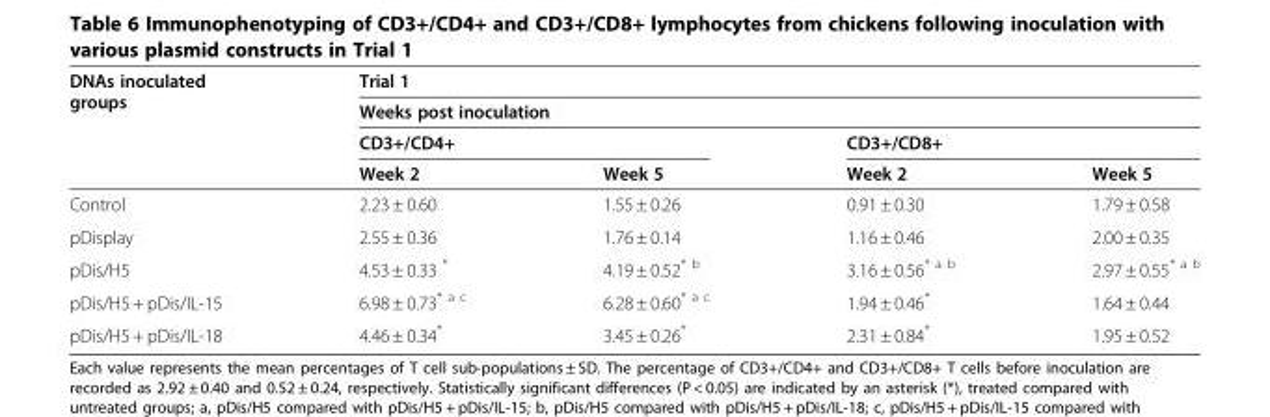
<table><thead><tr><td rowspan="4">DNAs inoculated groups</td><td rowspan="2" colspan="4">Trial 1 Weeks post inoculation</td></tr><tr></tr><tr><td colspan="2">CD3+/CD4+</td><td colspan="2">CD3+/CD8+</td></tr><tr><td>Week 2</td><td>Week 5</td><td>Week 2</td><td>Week 5</td></tr></thead><tbody><tr><td>Control</td><td>2.23 ± 0.60</td><td>1.55 ± 0.26</td><td>0.91 ± 0.30</td><td>1.79 ± 0.58</td></tr><tr><td>pDisplay</td><td>2.55 ± 0.36</td><td>1.76 ± 0.14</td><td>1.16 ± 0.46</td><td>2.00 ± 0.35</td></tr><tr><td>pDis/H5</td><td>4.53 ± 0.33 *</td><td>4.19 ± 0.52<sup>* b</sup></td><td>3.16 ± 0.56<sup>* a b</sup></td><td>2.97 ± 0.55<sup>* a b</sup></td></tr><tr><td>pDis/H5 + pDis/IL-15</td><td>6.98 ± 0.73<sup>* a c</sup></td><td>6.28 ± 0.60<sup>* a c</sup></td><td>1.94 ± 0.46*</td><td>1.64 ± 0.44</td></tr><tr><td>pDis/H5 + pDis/IL-18</td><td>4.46 ± 0.34*</td><td>3.45 ± 0.26*</td><td>2.31 ± 0.84*</td><td>1.95 ± 0.52</td></tr></tbody></table>